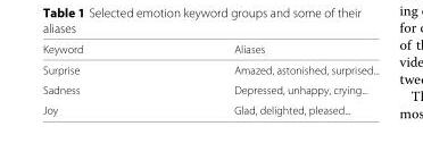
<table><thead><tr><td>Keyword</td><td>Aliases</td></tr></thead><tbody><tr><td>Surprise</td><td>Amazed, astonished, surprised...</td></tr><tr><td>Sadness</td><td>Depressed, unhappy, crying...</td></tr><tr><td>Joy</td><td>Glad, delighted, pleased...</td></tr></tbody></table>